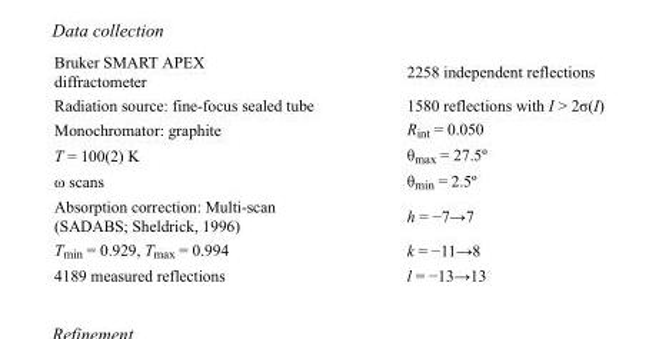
<table><tbody><tr><td>Bruker SMART APEX diffractometer</td><td>2258 independent reflections</td></tr><tr><td>Radiation source: fine-focus sealed tube</td><td>1580 reflections with I &gt; 2σ(I)</td></tr><tr><td>Monochromator: graphite</td><td>R<sub>int</sub> = 0.050</td></tr><tr><td>T = 100(2) K</td><td>θ<sub>max</sub> = 27.5º</td></tr><tr><td>ω scans</td><td>θ<sub>min</sub> = 2.5º</td></tr><tr><td>Absorption correction: Multi-scan (SADABS; Sheldrick, 1996)</td><td>h = −7→7</td></tr><tr><td>T<sub>min</sub> = 0.929, T<sub>max</sub> = 0.994</td><td>k = −11→8</td></tr><tr><td>4189 measured reflections</td><td>l = −13→13</td></tr></tbody></table>